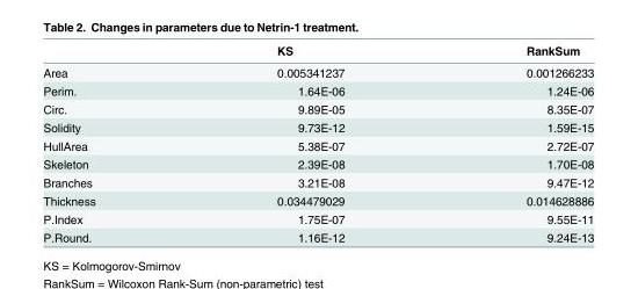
<table><thead><tr><td></td><td>KS</td><td>RankSum</td></tr></thead><tbody><tr><td>Area</td><td>0.005341237</td><td>0.001266233</td></tr><tr><td>Perim.</td><td>1.64E-06</td><td>1.24E-06</td></tr><tr><td>Circ.</td><td>9.89E-05</td><td>8.35E-07</td></tr><tr><td>Solidity</td><td>9.73E-12</td><td>1.59E-15</td></tr><tr><td>HullArea</td><td>5.38E-07</td><td>2.72E-07</td></tr><tr><td>Skeleton</td><td>2.39E-08</td><td>1.70E-08</td></tr><tr><td>Branches</td><td>3.21E-08</td><td>9.47E-12</td></tr><tr><td>Thickness</td><td>0.034479029</td><td>0.014628886</td></tr><tr><td>P.Index</td><td>1.75E-07</td><td>9.55E-11</td></tr><tr><td>P.Round.</td><td>1.16E-12</td><td>9.24E-13</td></tr></tbody></table>